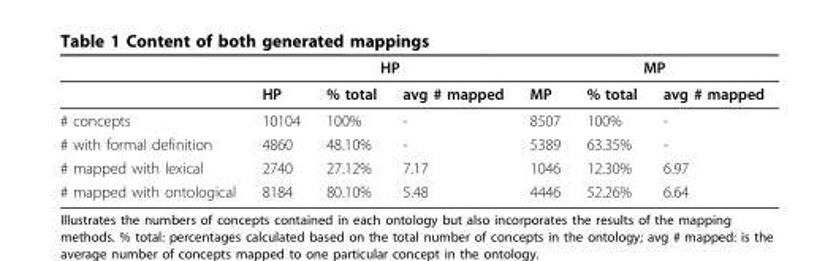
<table><thead><tr><td rowspan="2"></td><td colspan="3">HP</td><td colspan="3">MP</td></tr><tr><td>HP</td><td>% total</td><td>avg # mapped</td><td>MP</td><td>% total</td><td>avg # mapped</td></tr></thead><tbody><tr><td># concepts</td><td>10104</td><td>100%</td><td>-</td><td>8507</td><td>100%</td><td>-</td></tr><tr><td># with formal definition</td><td>4860</td><td>48.10%</td><td>-</td><td>5389</td><td>63.35%</td><td>-</td></tr><tr><td># mapped with lexical</td><td>2740</td><td>27.12%</td><td>7.17</td><td>1046</td><td>12.30%</td><td>6.97</td></tr><tr><td># mapped with ontological</td><td>8184</td><td>80.10%</td><td>5.48</td><td>4446</td><td>52.26%</td><td>6.64</td></tr></tbody></table>